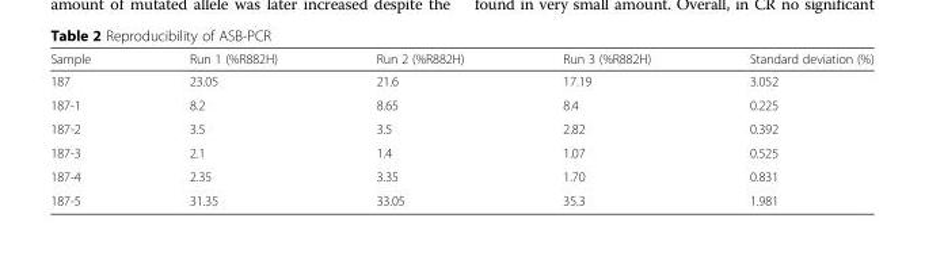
<table><thead><tr><td>Sample</td><td>Run 1 (%R882H)</td><td>Run 2 (%R882H)</td><td>Run 3 (%R882H)</td><td>Standard deviation (%)</td></tr></thead><tbody><tr><td>187</td><td>23.05</td><td>21.6</td><td>17.19</td><td>3.052</td></tr><tr><td>187-1</td><td>8.2</td><td>8.65</td><td>8.4</td><td>0.225</td></tr><tr><td>187-2</td><td>3.5</td><td>3.5</td><td>2.82</td><td>0.392</td></tr><tr><td>187-3</td><td>2.1</td><td>1.4</td><td>1.07</td><td>0.525</td></tr><tr><td>187-4</td><td>2.35</td><td>3.35</td><td>1.70</td><td>0.831</td></tr><tr><td>187-5</td><td>31.35</td><td>33.05</td><td>35.3</td><td>1.981</td></tr></tbody></table>